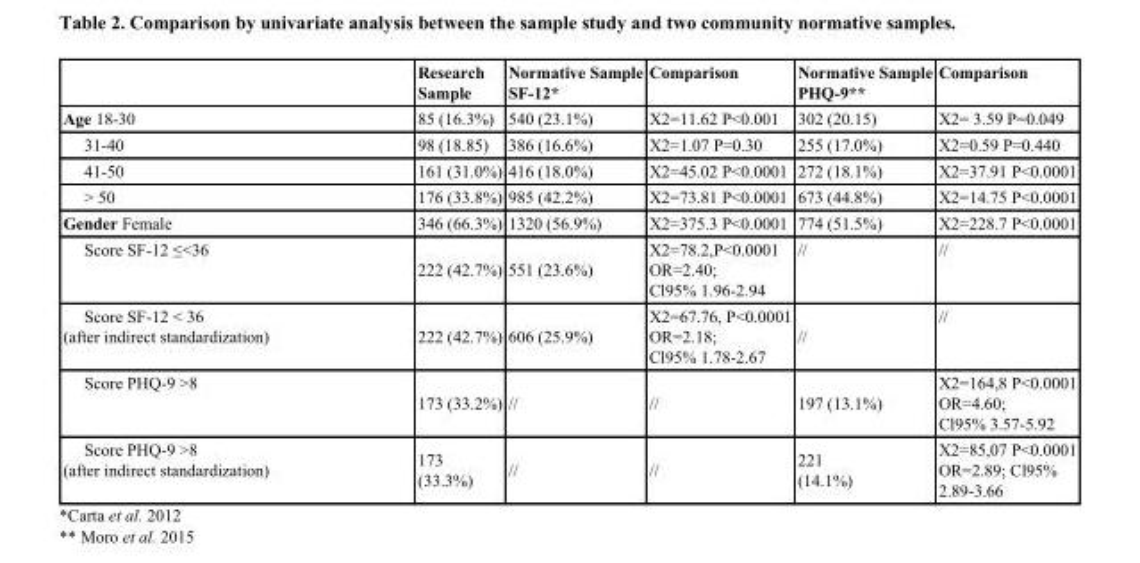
<table><thead><tr><td></td><td>Research Sample</td><td>Normative Sample SF-12*</td><td>Comparison</td><td>Normative Sample PHQ-9**</td><td>Comparison</td></tr></thead><tbody><tr><td>Age 18-30</td><td>85 (16.3%)</td><td>540 (23.1%)</td><td>Χ2=11.62 P&lt;0.001</td><td>302 (20.15)</td><td>Χ2= 3.59 P=0.049</td></tr><tr><td>31-40</td><td>98 (18.85)</td><td>386 (16.6%)</td><td>Χ2=1.07 P=0.30</td><td>255 (17.0%)</td><td>Χ2=0.59 P=0.440</td></tr><tr><td>41-50</td><td>161 (31.0%)</td><td>416 (18.0%)</td><td>Χ2=45.02 P&lt;0.0001</td><td>272 (18.1%)</td><td>Χ2=37.91 P&lt;0.0001</td></tr><tr><td>&gt; 50</td><td>176 (33.8%)</td><td>985 (42.2%)</td><td>Χ2=73.81 P&lt;0.0001</td><td>673 (44.8%)</td><td>Χ2=14.75 P&lt;0.0001</td></tr><tr><td>Gender Female</td><td>346 (66.3%)</td><td>1320 (56.9%)</td><td>Χ2=375.3 P&lt;0.0001</td><td>774 (51.5%)</td><td>Χ2=228.7 P&lt;0.0001</td></tr><tr><td>Score SF-12 ≤&lt;36</td><td>222 (42.7%)</td><td>551 (23.6%)</td><td>X2=78.2,P&lt;0.0001 OR=2.40; Cl95% 1.96-2.94</td><td>//</td><td>//</td></tr><tr><td>Score SF-12 &lt; 36 (after indirect standardization)</td><td>222 (42.7%)</td><td>606 (25.9%)</td><td>X2=67.76, P&lt;0.0001 OR=2.18; Cl95% 1.78-2.67</td><td>//</td><td>//</td></tr><tr><td>Score PHQ-9 &gt;8</td><td>173 (33.2%)</td><td>//</td><td>//</td><td>197 (13.1%)</td><td>X2=164,8 P&lt;0.0001 OR=4.60; Cl95% 3.57-5.92</td></tr><tr><td>Score PHQ-9 &gt;8 (after indirect standardization)</td><td>173 (33.3%)</td><td>//</td><td>//</td><td>221 (14.1%)</td><td>X2=85,07 P&lt;0.0001 OR=2.89; Cl95% 2.89-3.66</td></tr></tbody></table>